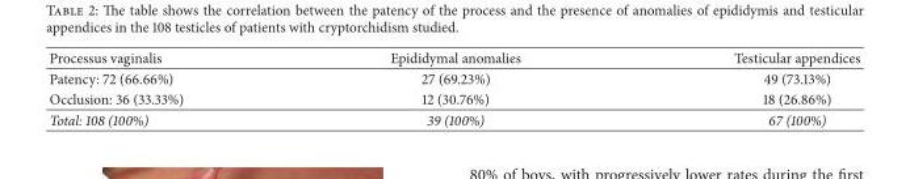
<table><thead><tr><td>Processus vaginalis</td><td>Epididymal anomalies</td><td>Testicular appendices</td></tr></thead><tbody><tr><td>Patency: 72 (66.66%)</td><td>27 (69.23%)</td><td>49 (73.13%)</td></tr><tr><td>Occlusion: 36 (33.33%)</td><td>12 (30.76%)</td><td>18 (26.86%)</td></tr><tr><td>Total: 108 (100%)</td><td>39 (100%)</td><td>67 (100%)</td></tr></tbody></table>